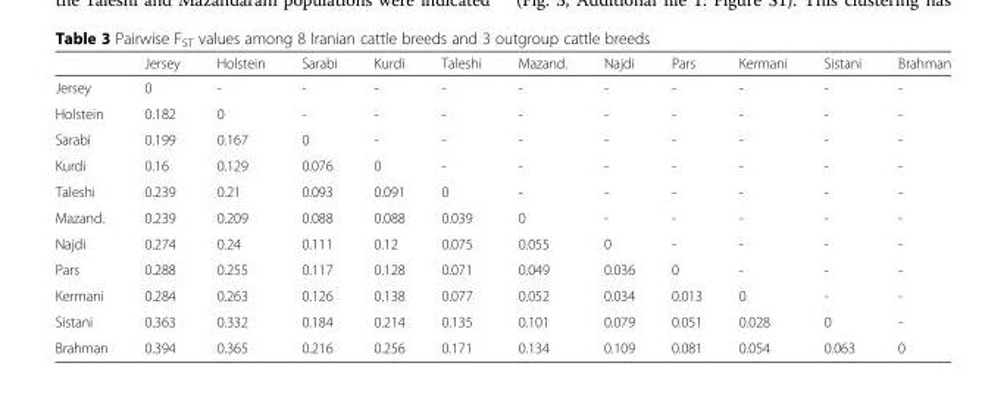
<table><thead><tr><td></td><td>Jersey</td><td>Holstein</td><td>Sarabi</td><td>Kurdi</td><td>Taleshi</td><td>Mazand.</td><td>Najdi</td><td>Pars</td><td>Kermani</td><td>Sistani</td><td>Brahman</td></tr></thead><tbody><tr><td>Jersey</td><td>0</td><td>-</td><td>-</td><td>-</td><td>-</td><td>-</td><td>-</td><td>-</td><td>-</td><td>-</td><td>-</td></tr><tr><td>Holstein</td><td>0.182</td><td>0</td><td>-</td><td>-</td><td>-</td><td>-</td><td>-</td><td>-</td><td>-</td><td>-</td><td>-</td></tr><tr><td>Sarabi</td><td>0.199</td><td>0.167</td><td>0</td><td>-</td><td>-</td><td>-</td><td>-</td><td>-</td><td>-</td><td>-</td><td>-</td></tr><tr><td>Kurdi</td><td>0.16</td><td>0.129</td><td>0.076</td><td>0</td><td>-</td><td>-</td><td>-</td><td>-</td><td>-</td><td>-</td><td>-</td></tr><tr><td>Taleshi</td><td>0.239</td><td>0.21</td><td>0.093</td><td>0.091</td><td>0</td><td>-</td><td>-</td><td>-</td><td>-</td><td>-</td><td>-</td></tr><tr><td>Mazand.</td><td>0.239</td><td>0.209</td><td>0.088</td><td>0.088</td><td>0.039</td><td>0</td><td>-</td><td>-</td><td>-</td><td>-</td><td>-</td></tr><tr><td>Najdi</td><td>0.274</td><td>0.24</td><td>0.111</td><td>0.12</td><td>0.075</td><td>0.055</td><td>0</td><td>-</td><td>-</td><td>-</td><td>-</td></tr><tr><td>Pars</td><td>0.288</td><td>0.255</td><td>0.117</td><td>0.128</td><td>0.071</td><td>0.049</td><td>0.036</td><td>0</td><td>-</td><td>-</td><td>-</td></tr><tr><td>Kermani</td><td>0.284</td><td>0.263</td><td>0.126</td><td>0.138</td><td>0.077</td><td>0.052</td><td>0.034</td><td>0.013</td><td>0</td><td>-</td><td>-</td></tr><tr><td>Sistani</td><td>0.363</td><td>0.332</td><td>0.184</td><td>0.214</td><td>0.135</td><td>0.101</td><td>0.079</td><td>0.051</td><td>0.028</td><td>0</td><td>-</td></tr><tr><td>Brahman</td><td>0.394</td><td>0.365</td><td>0.216</td><td>0.256</td><td>0.171</td><td>0.134</td><td>0.109</td><td>0.081</td><td>0.054</td><td>0.063</td><td>0</td></tr></tbody></table>